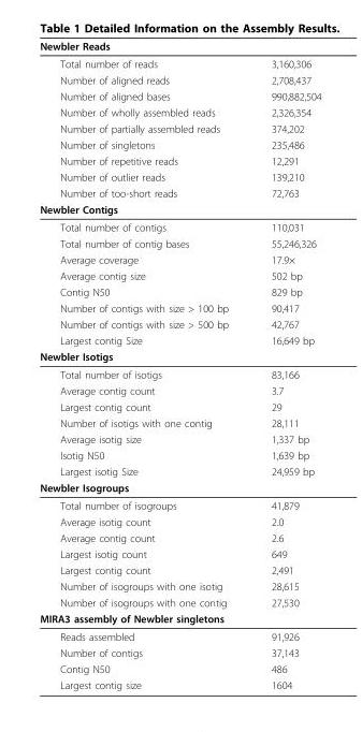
<table><thead><tr><td>Newbler Reads</td><td></td></tr></thead><tbody><tr><td>Total number of reads</td><td>3,160,306</td></tr><tr><td>Number of aligned reads</td><td>2,708,437</td></tr><tr><td>Number of aligned bases</td><td>990,882,504</td></tr><tr><td>Number of wholly assembled reads</td><td>2,326,354</td></tr><tr><td>Number of partially assembled reads</td><td>374,202</td></tr><tr><td>Number of singletons</td><td>235,486</td></tr><tr><td>Number of repetitive reads</td><td>12,291</td></tr><tr><td>Number of outlier reads</td><td>139,210</td></tr><tr><td>Number of too-short reads</td><td>72,763</td></tr><tr><td colspan="2">Newbler Contigs</td></tr><tr><td>Total number of contigs</td><td>110,031</td></tr><tr><td>Total number of contig bases</td><td>55,246,326</td></tr><tr><td>Average coverage</td><td>17.9×</td></tr><tr><td>Average contig size</td><td>502 bp</td></tr><tr><td>Contig N50</td><td>829 bp</td></tr><tr><td>Number of contigs with size &gt; 100 bp</td><td>90,417</td></tr><tr><td>Number of contigs with size &gt; 500 bp</td><td>42,767</td></tr><tr><td>Largest contig Size</td><td>16,649 bp</td></tr><tr><td colspan="2">Newbler Isotigs</td></tr><tr><td>Total number of isotigs</td><td>83,166</td></tr><tr><td>Average contig count</td><td>3.7</td></tr><tr><td>Largest contig count</td><td>29</td></tr><tr><td>Number of isotigs with one contig</td><td>28,111</td></tr><tr><td>Average isotig size</td><td>1,337 bp</td></tr><tr><td>Isotig N50</td><td>1,639 bp</td></tr><tr><td>Largest isotig Size</td><td>24,959 bp</td></tr><tr><td colspan="2">Newbler Isogroups</td></tr><tr><td>Total number of isogroups</td><td>41,879</td></tr><tr><td>Average isotig count</td><td>2.0</td></tr><tr><td>Average contig count</td><td>2.6</td></tr><tr><td>Largest isotig count</td><td>649</td></tr><tr><td>Largest contig count</td><td>2,491</td></tr><tr><td>Number of isogroups with one isotig</td><td>28,615</td></tr><tr><td>Number of isogroups with one contig</td><td>27,530</td></tr><tr><td colspan="2">MIRA3 assembly of Newbler singletons</td></tr><tr><td>Reads assembled</td><td>91,926</td></tr><tr><td>Number of contigs</td><td>37,143</td></tr><tr><td>Contig N50</td><td>486</td></tr><tr><td>Largest contig size</td><td>1604</td></tr></tbody></table>